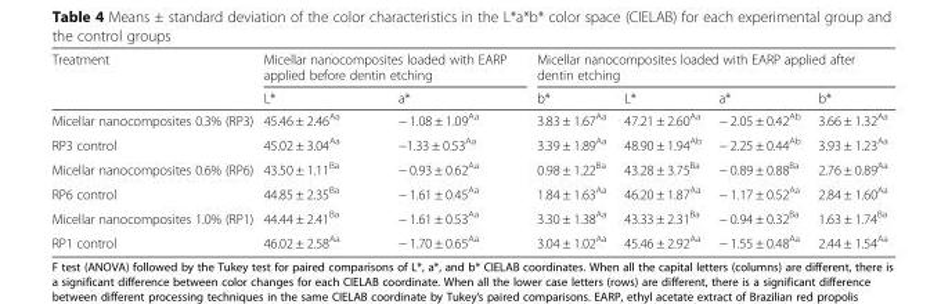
<table><thead><tr><td rowspan="2">Treatment</td><td colspan="2">Micellar nanocomposites loaded with EARP applied before dentin etching</td><td colspan="4">Micellar nanocomposites loaded with EARP applied after dentin etching</td></tr><tr><td>L*</td><td>a*</td><td>b*</td><td>L*</td><td>a*</td><td>b*</td></tr></thead><tbody><tr><td>Micellar nanocomposites 0.3% (RP3)</td><td>45.46 ± 2.46<sup>Aa</sup></td><td>− 1.08 ± 1.09<sup>Aa</sup></td><td>3.83 ± 1.67<sup>Aa</sup></td><td>47.21 ± 2.60<sup>Aa</sup></td><td>− 2.05 ± 0.42<sup>Ab</sup></td><td>3.66 ± 1.32<sup>Aa</sup></td></tr><tr><td>RP3 control</td><td>45.02 ± 3.04<sup>Aa</sup></td><td>−1.33 ± 0.53<sup>Aa</sup></td><td>3.39 ± 1.89<sup>Aa</sup></td><td>48.90 ± 1.94<sup>Ab</sup></td><td>− 2.25 ± 0.44<sup>Ab</sup></td><td>3.93 ± 1.23<sup>Aa</sup></td></tr><tr><td>Micellar nanocomposites 0.6% (RP6)</td><td>43.50 ± 1.11<sup>Ba</sup></td><td>− 0.93 ± 0.62<sup>Aa</sup></td><td>0.98 ± 1.22<sup>Ba</sup></td><td>43.28 ± 3.75<sup>Ba</sup></td><td>− 0.89 ± 0.88<sup>Ba</sup></td><td>2.76 ± 0.89<sup>Aa</sup></td></tr><tr><td>RP6 control</td><td>44.85 ± 2.35<sup>Ba</sup></td><td>− 1.61 ± 0.45<sup>Aa</sup></td><td>1.84 ± 1.63<sup>Aa</sup></td><td>46.20 ± 1.87<sup>Aa</sup></td><td>− 1.17 ± 0.52<sup>Aa</sup></td><td>2.84 ± 1.60<sup>Aa</sup></td></tr><tr><td>Micellar nanocomposites 1.0% (RP1)</td><td>44.44 ± 2.41<sup>Ba</sup></td><td>− 1.61 ± 0.53<sup>Aa</sup></td><td>3.30 ± 1.38<sup>Aa</sup></td><td>43.33 ± 2.31<sup>Ba</sup></td><td>− 0.94 ± 0.32<sup>Ba</sup></td><td>1.63 ± 1.74<sup>Ba</sup></td></tr><tr><td>RP1 control</td><td>46.02 ± 2.58<sup>Aa</sup></td><td>− 1.70 ± 0.65<sup>Aa</sup></td><td>3.04 ± 1.02<sup>Aa</sup></td><td>45.46 ± 2.92<sup>Aa</sup></td><td>− 1.55 ± 0.48<sup>Aa</sup></td><td>2.44 ± 1.54<sup>Aa</sup></td></tr></tbody></table>